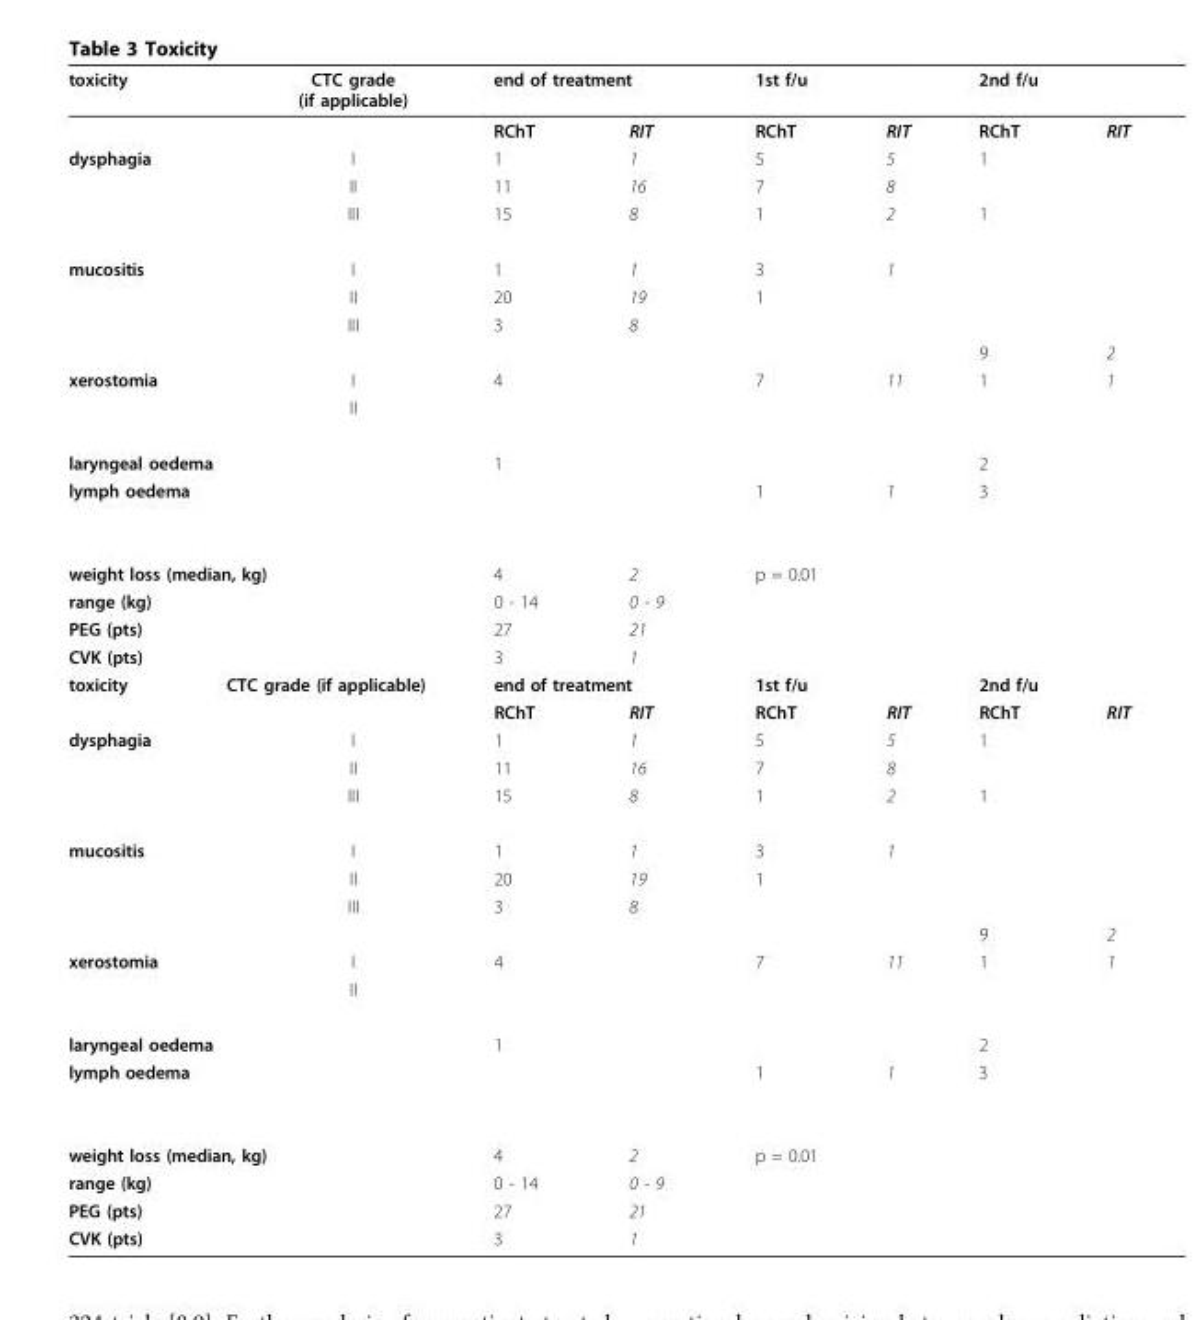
<table><thead><tr><td rowspan="2">toxicity</td><td rowspan="2">CTC grade (if applicable)</td><td colspan="2">end of treatment</td><td rowspan="2">1st f/u RChT</td><td rowspan="2">RIT</td><td rowspan="2">2nd f/u RChT</td><td rowspan="2">RIT</td></tr><tr><td>RChT</td><td>RIT</td></tr></thead><tbody><tr><td rowspan="3">dysphagia</td><td>I</td><td>1</td><td>1</td><td>5</td><td>5</td><td>1</td><td></td></tr><tr><td>II</td><td>11</td><td>16</td><td>7</td><td>8</td><td></td><td></td></tr><tr><td>III</td><td>15</td><td>8</td><td>1</td><td>2</td><td>1</td><td></td></tr><tr><td rowspan="4">mucositis</td><td>I</td><td>1</td><td>1</td><td>3</td><td>1</td><td></td><td></td></tr><tr><td>II</td><td>20</td><td>19</td><td>1</td><td></td><td></td><td></td></tr><tr><td>III</td><td>3</td><td>8</td><td></td><td></td><td></td><td></td></tr><tr><td></td><td></td><td></td><td></td><td></td><td>9</td><td>2</td></tr><tr><td rowspan="2">xerostomia</td><td>I</td><td>4</td><td></td><td>7</td><td>11</td><td>1</td><td>1</td></tr><tr><td>II</td><td></td><td></td><td></td><td></td><td></td><td></td></tr><tr><td colspan="2">laryngeal oedema</td><td>1</td><td></td><td></td><td></td><td>2</td><td></td></tr><tr><td colspan="2">lymph oedema</td><td></td><td></td><td>1</td><td>1</td><td>3</td><td></td></tr><tr><td colspan="2">weight loss (median, kg)</td><td>4</td><td>2</td><td>p = 0.01</td><td></td><td></td><td></td></tr><tr><td>range (kg)</td><td></td><td>0 - 14</td><td>0 - 9</td><td></td><td></td><td></td><td></td></tr><tr><td>PEG (pts)</td><td></td><td>27</td><td>21</td><td></td><td></td><td></td><td></td></tr><tr><td>CVK (pts)</td><td></td><td>3</td><td>1</td><td></td><td></td><td></td><td></td></tr><tr><td rowspan="2">toxicity</td><td>CTC grade (if applicable)</td><td colspan="2">end of treatment</td><td>1st f/u</td><td></td><td>2nd f/u</td><td></td></tr><tr><td></td><td>RChT</td><td>RIT</td><td>RChT</td><td>RIT</td><td>RChT</td><td>RIT</td></tr><tr><td rowspan="3">dysphagia</td><td>I</td><td>1</td><td>1</td><td>5</td><td>5</td><td>1</td><td></td></tr><tr><td>II</td><td>11</td><td>16</td><td>7</td><td>8</td><td></td><td></td></tr><tr><td>III</td><td>15</td><td>8</td><td>1</td><td>2</td><td>1</td><td></td></tr><tr><td rowspan="4">mucositis</td><td>I</td><td>1</td><td>1</td><td>3</td><td>1</td><td></td><td></td></tr><tr><td>II</td><td>20</td><td>19</td><td>1</td><td></td><td></td><td></td></tr><tr><td>III</td><td>3</td><td>8</td><td></td><td></td><td></td><td></td></tr><tr><td></td><td></td><td></td><td></td><td></td><td>9</td><td>2</td></tr><tr><td rowspan="2">xerostomia</td><td>I</td><td>4</td><td></td><td>7</td><td>11</td><td>1</td><td>1</td></tr><tr><td>II</td><td></td><td></td><td></td><td></td><td></td><td></td></tr><tr><td colspan="2">laryngeal oedema</td><td>1</td><td></td><td></td><td></td><td>2</td><td></td></tr><tr><td colspan="2">lymph oedema</td><td></td><td></td><td>1</td><td>1</td><td>3</td><td></td></tr><tr><td colspan="2">weight loss (median, kg)</td><td>4</td><td>2</td><td>p = 0.01</td><td></td><td></td><td></td></tr><tr><td>range (kg)</td><td></td><td>0 - 14</td><td>0 - 9</td><td></td><td></td><td></td><td></td></tr><tr><td>PEG (pts)</td><td></td><td>27</td><td>21</td><td></td><td></td><td></td><td></td></tr><tr><td>CVK (pts)</td><td></td><td>3</td><td>1</td><td></td><td></td><td></td><td></td></tr></tbody></table>